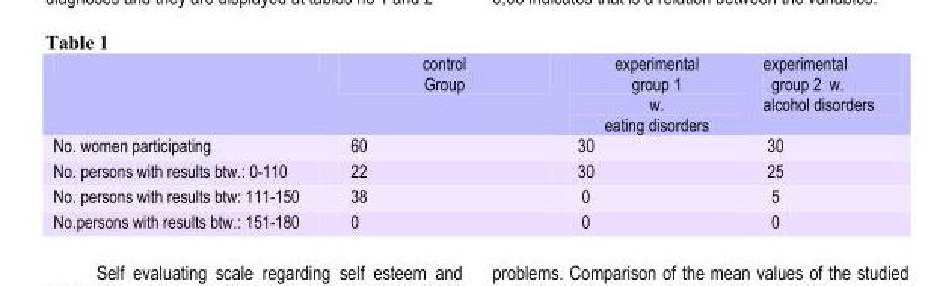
<table><thead><tr><td></td><td>control Group</td><td>experimental group 1 w. eating disorders</td><td>experimental group 2 w. alcohol disorders</td></tr></thead><tbody><tr><td>No. women participating</td><td>60</td><td>30</td><td>30</td></tr><tr><td>No. persons with results btw.: 0-110</td><td>22</td><td>30</td><td>25</td></tr><tr><td>No. persons with results btw: 111-150</td><td>38</td><td>0</td><td>5</td></tr><tr><td>No.persons with results btw.: 151-180</td><td>0</td><td>0</td><td>0</td></tr></tbody></table>